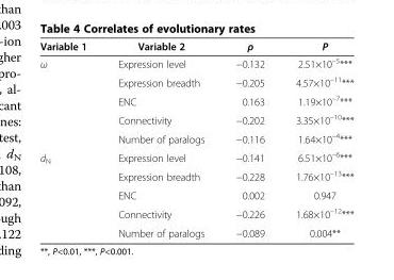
<table><thead><tr><td>Variable 1</td><td>Variable 2</td><td>ρ</td><td>P</td></tr></thead><tbody><tr><td rowspan="5">ω</td><td>Expression level</td><td>−0.132</td><td>2.51×10<sup>–5</sup>***</td></tr><tr><td>Expression breadth</td><td>−0.205</td><td>4.57×10<sup>–11</sup>***</td></tr><tr><td>ENC</td><td>0.163</td><td>1.19×10<sup>–7</sup>***</td></tr><tr><td>Connectivity</td><td>−0.202</td><td>3.35×10<sup>–10</sup>***</td></tr><tr><td>Number of paralogs</td><td>−0.116</td><td>1.64×10<sup>–4</sup>***</td></tr><tr><td rowspan="5">d<sub>N</sub></td><td>Expression level</td><td>−0.141</td><td>6.51×10<sup>–6</sup>***</td></tr><tr><td>Expression breadth</td><td>−0.228</td><td>1.76×10<sup>–13</sup>***</td></tr><tr><td>ENC</td><td>0.002</td><td>0.947</td></tr><tr><td>Connectivity</td><td>−0.226</td><td>1.68×10<sup>–12</sup>***</td></tr><tr><td>Number of paralogs</td><td>−0.089</td><td>0.004**</td></tr></tbody></table>